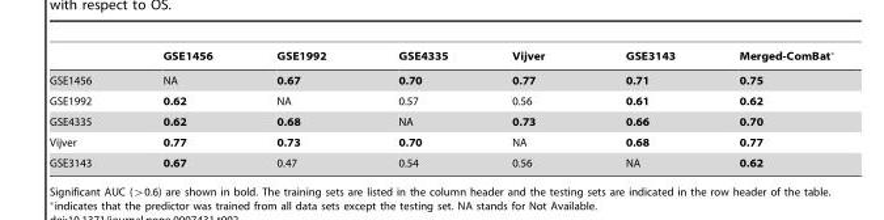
<table><thead><tr><td></td><td>GSE1456</td><td>GSE1992</td><td>GSE4335</td><td>Vijver</td><td>GSE3143</td><td>Merged-ComBat�</td></tr></thead><tbody><tr><td>GSE1456</td><td>NA</td><td>0.67</td><td>0.70</td><td>0.77</td><td>0.71</td><td>0.75</td></tr><tr><td>GSE1992</td><td>0.62</td><td>NA</td><td>0.57</td><td>0.56</td><td>0.61</td><td>0.62</td></tr><tr><td>GSE4335</td><td>0.62</td><td>0.68</td><td>NA</td><td>0.73</td><td>0.66</td><td>0.70</td></tr><tr><td>Vijver</td><td>0.77</td><td>0.73</td><td>0.70</td><td>NA</td><td>0.68</td><td>0.77</td></tr><tr><td>GSE3143</td><td>0.67</td><td>0.47</td><td>0.54</td><td>0.56</td><td>NA</td><td>0.62</td></tr></tbody></table>